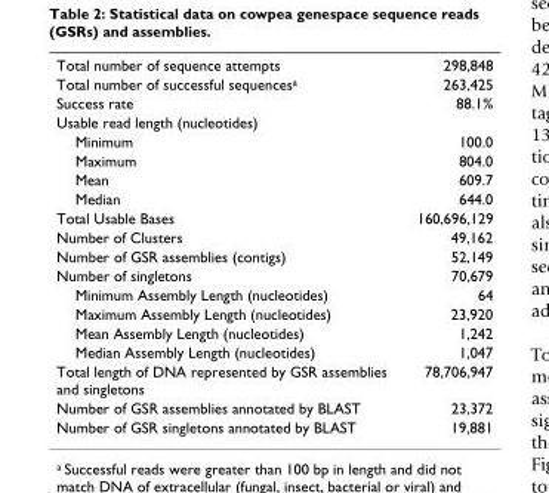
<table><tbody><tr><td>Total number of sequence attempts</td><td>298,848</td></tr><tr><td>Total number of successful sequences<sup>a</sup></td><td>263,425</td></tr><tr><td>Success rate</td><td>88.1%</td></tr><tr><td colspan="2">Usable read length (nucleotides)</td></tr><tr><td>Minimum</td><td>100.0</td></tr><tr><td>Maximum</td><td>804.0</td></tr><tr><td>Mean</td><td>609.7</td></tr><tr><td>Median</td><td>644.0</td></tr><tr><td>Total Usable Bases</td><td>160,696,129</td></tr><tr><td>Number of Clusters</td><td>49,162</td></tr><tr><td>Number of GSR assemblies (contigs)</td><td>52,149</td></tr><tr><td>Number of singletons</td><td>70,679</td></tr><tr><td>Minimum Assembly Length (nucleotides)</td><td>64</td></tr><tr><td>Maximum Assembly Length (nucleotides)</td><td>23,920</td></tr><tr><td>Mean Assembly Length (nucleotides)</td><td>1,242</td></tr><tr><td>Median Assembly Length (nucleotides)</td><td>1,047</td></tr><tr><td>Total length of DNA represented by GSR assemblies and singletons</td><td>78,706,947</td></tr><tr><td>Number of GSR assemblies annotated by BLAST</td><td>23,372</td></tr><tr><td>Number of GSR singletons annotated by BLAST</td><td>19,881</td></tr></tbody></table>